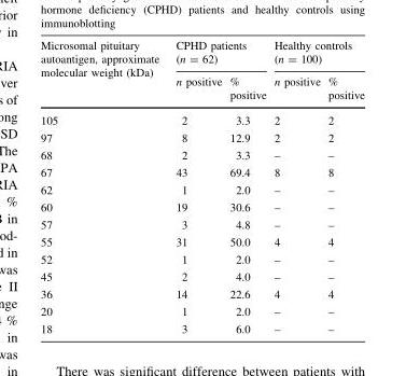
<table><thead><tr><td rowspan="2">Microsomal pituitary autoantigen, approximate molecular weight (kDa)</td><td colspan="2">CPHD patients (n = 62)</td><td colspan="2">Healthy controls (n = 100)</td></tr><tr><td>n positive</td><td>% positive</td><td>n positive</td><td>% positive</td></tr></thead><tbody><tr><td>105</td><td>2</td><td>3.3</td><td>2</td><td>2</td></tr><tr><td>97</td><td>8</td><td>12.9</td><td>2</td><td>2</td></tr><tr><td>68</td><td>2</td><td>3.3</td><td>–</td><td>–</td></tr><tr><td>67</td><td>43</td><td>69.4</td><td>8</td><td>8</td></tr><tr><td>62</td><td>1</td><td>2.0</td><td>–</td><td>–</td></tr><tr><td>60</td><td>19</td><td>30.6</td><td>–</td><td>–</td></tr><tr><td>57</td><td>3</td><td>4.8</td><td>–</td><td>–</td></tr><tr><td>55</td><td>31</td><td>50.0</td><td>4</td><td>4</td></tr><tr><td>52</td><td>1</td><td>2.0</td><td>–</td><td>–</td></tr><tr><td>45</td><td>2</td><td>4.0</td><td>–</td><td>–</td></tr><tr><td>36</td><td>14</td><td>22.6</td><td>4</td><td>4</td></tr><tr><td>20</td><td>1</td><td>2.0</td><td>–</td><td>–</td></tr><tr><td>18</td><td>3</td><td>6.0</td><td>–</td><td>–</td></tr></tbody></table>